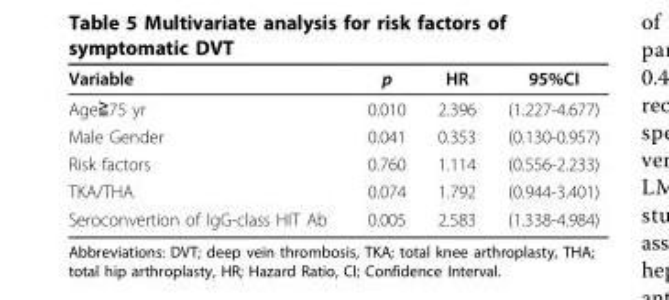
<table><thead><tr><td>Variable</td><td>p</td><td>HR</td><td>95%CI</td></tr></thead><tbody><tr><td>Age≧75 yr</td><td>0.010</td><td>2.396</td><td>(1.227-4.677)</td></tr><tr><td>Male Gender</td><td>0.041</td><td>0.353</td><td>(0.130-0.957)</td></tr><tr><td>Risk factors</td><td>0.760</td><td>1.114</td><td>(0.556-2.233)</td></tr><tr><td>TKA/THA</td><td>0.074</td><td>1.792</td><td>(0.944-3.401)</td></tr><tr><td>Seroconvertion of IgG-class HIT Ab</td><td>0.005</td><td>2.583</td><td>(1.338-4.984)</td></tr></tbody></table>